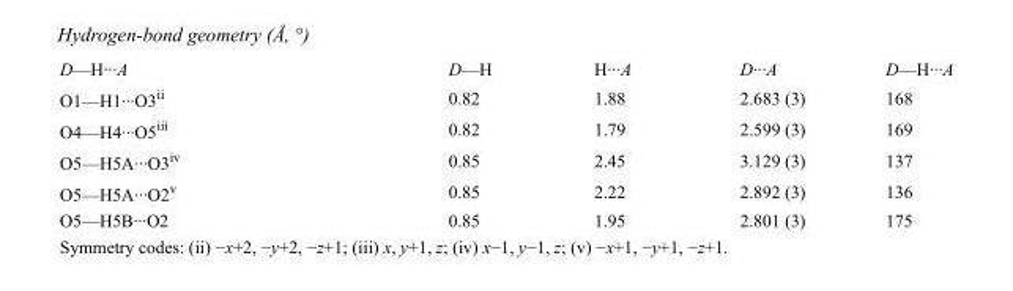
<table><tbody><tr><td>D—H···A</td><td>D—H</td><td>H···A</td><td>D···A</td><td>D—H···A</td></tr><tr><td>O1—H1···O3<sup>ii</sup></td><td>0.82</td><td>1.88</td><td>2.683 (3)</td><td>168</td></tr><tr><td>O4—H4···O5<sup>iii</sup></td><td>0.82</td><td>1.79</td><td>2.599 (3)</td><td>169</td></tr><tr><td>O5—H5A···O3<sup>iv</sup></td><td>0.85</td><td>2.45</td><td>3.129 (3)</td><td>137</td></tr><tr><td>O5—H5A···O2<sup>v</sup></td><td>0.85</td><td>2.22</td><td>2.892 (3)</td><td>136</td></tr><tr><td>O5—H5B···O2</td><td>0.85</td><td>1.95</td><td>2.801 (3)</td><td>175</td></tr></tbody></table>